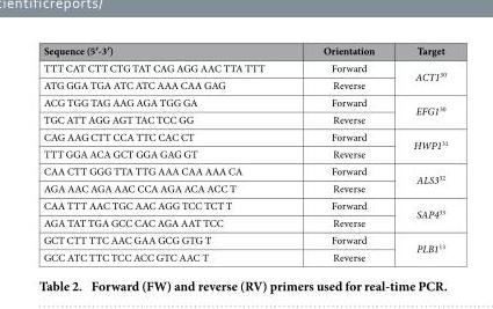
<table><thead><tr><td>Sequence (5′-3′)</td><td>Orientation</td><td>Target</td></tr></thead><tbody><tr><td>TTT CAT CTT CTG TAT CAG AGG AAC TTA TTT</td><td>Forward</td><td rowspan="2">ACT1<sup>30</sup></td></tr><tr><td>ATG GGA TGA ATC ATC AAA CAA GAG</td><td>Reverse</td></tr><tr><td>ACG TGG TAG AAG AGA TGG GA</td><td>Forward</td><td rowspan="2">EFG1<sup>30</sup></td></tr><tr><td>TGC ATT AGG AGT TAC TCC GG</td><td>Reverse</td></tr><tr><td>CAG AAG CTT CCA TTC CAC CT</td><td>Forward</td><td rowspan="2">HWP1<sup>31</sup></td></tr><tr><td>TTT GGA ACA GCT GGA GAG GT</td><td>Reverse</td></tr><tr><td>CAA CTT GGG TTA TTG AAA CAA AAA CA</td><td>Forward</td><td rowspan="2">ALS3<sup>32</sup></td></tr><tr><td>AGA AAC AGA AAC CCA AGA ACA ACC T</td><td>Reverse</td></tr><tr><td>CAA TTT AAC TGC AAC AGG TCC TCT T</td><td>Forward</td><td rowspan="2">SAP4<sup>33</sup></td></tr><tr><td>AGA TAT TGA GCC CAC AGA AAT TCC</td><td>Reverse</td></tr><tr><td>GCT CTT TTC AAC GAA GCG GTG T</td><td>Forward</td><td rowspan="2">PLB1<sup>13</sup></td></tr><tr><td>GCC ATC TTC TCC ACC GTC AAC T</td><td>Reverse</td></tr></tbody></table>